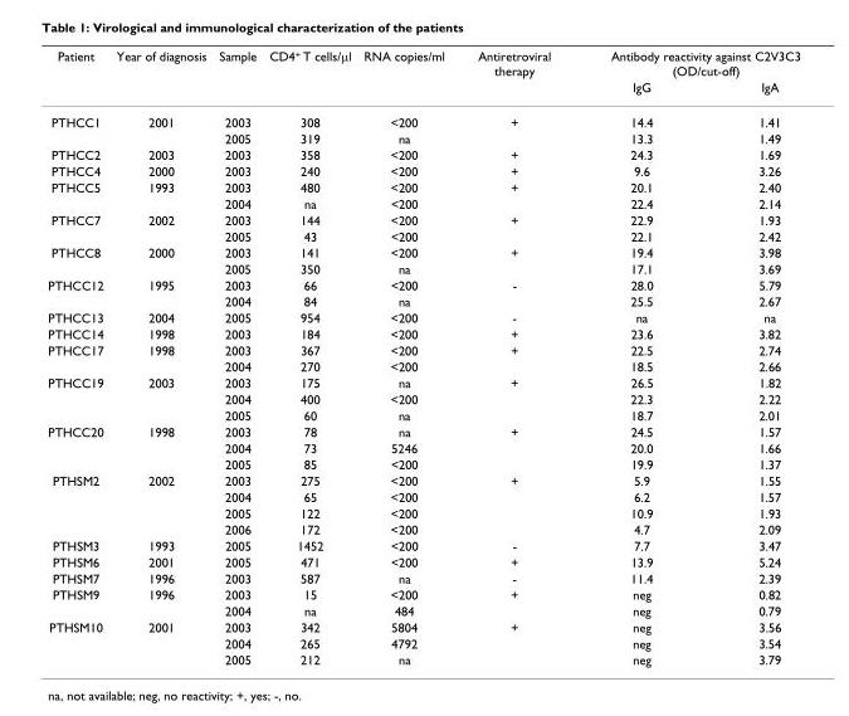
<table><thead><tr><td rowspan="2">Patient</td><td rowspan="2">Year of diagnosis</td><td rowspan="2">Sample</td><td rowspan="2">CD4<sup>+</sup> T cells/μl</td><td rowspan="2">RNA copies/ml</td><td rowspan="2">Antiretroviral therapy</td><td colspan="2">Antibody reactivity against C2V3C3 (OD/cut-off)</td></tr><tr><td>IgG</td><td>IgA</td></tr></thead><tbody><tr><td rowspan="2">PTHCC1</td><td>2001</td><td>2003</td><td>308</td><td>&lt;200</td><td>+</td><td>14.4</td><td>1.41</td></tr><tr><td></td><td>2005</td><td>319</td><td>na</td><td></td><td>13.3</td><td>1.49</td></tr><tr><td>PTHCC2</td><td>2003</td><td>2003</td><td>358</td><td>&lt;200</td><td>+</td><td>24.3</td><td>1.69</td></tr><tr><td>PTHCC4</td><td>2000</td><td>2003</td><td>240</td><td>&lt;200</td><td>+</td><td>9.6</td><td>3.26</td></tr><tr><td rowspan="2">PTHCC5</td><td>1993</td><td>2003</td><td>480</td><td>&lt;200</td><td>+</td><td>20.1</td><td>2.40</td></tr><tr><td></td><td>2004</td><td>na</td><td>&lt;200</td><td></td><td>22.4</td><td>2.14</td></tr><tr><td rowspan="2">PTHCC7</td><td>2002</td><td>2003</td><td>144</td><td>&lt;200</td><td>+</td><td>22.9</td><td>1.93</td></tr><tr><td></td><td>2005</td><td>43</td><td>&lt;200</td><td></td><td>22.1</td><td>2.42</td></tr><tr><td rowspan="2">PTHCC8</td><td>2000</td><td>2003</td><td>141</td><td>&lt;200</td><td>+</td><td>19.4</td><td>3.98</td></tr><tr><td></td><td>2005</td><td>350</td><td>na</td><td></td><td>17.1</td><td>3.69</td></tr><tr><td rowspan="2">PTHCC12</td><td>1995</td><td>2003</td><td>66</td><td>&lt;200</td><td>-</td><td>28.0</td><td>5.79</td></tr><tr><td></td><td>2004</td><td>84</td><td>na</td><td></td><td>25.5</td><td>2.67</td></tr><tr><td>PTHCC13</td><td>2004</td><td>2005</td><td>954</td><td>&lt;200</td><td>-</td><td>na</td><td>na</td></tr><tr><td>PTHCC14</td><td>1998</td><td>2003</td><td>184</td><td>&lt;200</td><td>+</td><td>23.6</td><td>3.82</td></tr><tr><td rowspan="2">PTHCC17</td><td>1998</td><td>2003</td><td>367</td><td>&lt;200</td><td>+</td><td>22.5</td><td>2.74</td></tr><tr><td></td><td>2004</td><td>270</td><td>&lt;200</td><td></td><td>18.5</td><td>2.66</td></tr><tr><td rowspan="3">PTHCC19</td><td>2003</td><td>2003</td><td>175</td><td>na</td><td>+</td><td>26.5</td><td>1.82</td></tr><tr><td></td><td>2004</td><td>400</td><td>&lt;200</td><td></td><td>22.3</td><td>2.22</td></tr><tr><td></td><td>2005</td><td>60</td><td>na</td><td></td><td>18.7</td><td>2.01</td></tr><tr><td rowspan="3">PTHCC20</td><td>1998</td><td>2003</td><td>78</td><td>na</td><td>+</td><td>24.5</td><td>1.57</td></tr><tr><td></td><td>2004</td><td>73</td><td>5246</td><td></td><td>20.0</td><td>1.66</td></tr><tr><td></td><td>2005</td><td>85</td><td>&lt;200</td><td></td><td>19.9</td><td>1.37</td></tr><tr><td rowspan="4">PTHSM2</td><td>2002</td><td>2003</td><td>275</td><td>&lt;200</td><td>+</td><td>5.9</td><td>1.55</td></tr><tr><td></td><td>2004</td><td>65</td><td>&lt;200</td><td></td><td>6.2</td><td>1.57</td></tr><tr><td></td><td>2005</td><td>122</td><td>&lt;200</td><td></td><td>10.9</td><td>1.93</td></tr><tr><td></td><td>2006</td><td>172</td><td>&lt;200</td><td></td><td>4.7</td><td>2.09</td></tr><tr><td>PTHSM3</td><td>1993</td><td>2005</td><td>1452</td><td>&lt;200</td><td>-</td><td>7.7</td><td>3.47</td></tr><tr><td>PTHSM6</td><td>2001</td><td>2005</td><td>471</td><td>&lt;200</td><td>+</td><td>13.9</td><td>5.24</td></tr><tr><td>PTHSM7</td><td>1996</td><td>2003</td><td>587</td><td>na</td><td>-</td><td>11.4</td><td>2.39</td></tr><tr><td rowspan="2">PTHSM9</td><td>1996</td><td>2003</td><td>15</td><td>&lt;200</td><td>+</td><td>neg</td><td>0.82</td></tr><tr><td></td><td>2004</td><td>na</td><td>484</td><td></td><td>neg</td><td>0.79</td></tr><tr><td rowspan="3">PTHSM10</td><td>2001</td><td>2003</td><td>342</td><td>5804</td><td>+</td><td>neg</td><td>3.56</td></tr><tr><td></td><td>2004</td><td>265</td><td>4792</td><td></td><td>neg</td><td>3.54</td></tr><tr><td></td><td>2005</td><td>212</td><td>na</td><td></td><td>neg</td><td>3.79</td></tr></tbody></table>